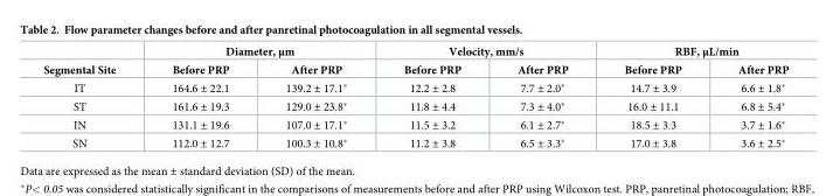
<table><thead><tr><td rowspan="2">Segmental Site</td><td colspan="2">Diameter, μm</td><td colspan="2">Velocity, mm/s</td><td colspan="2">RBF, μL/min</td></tr><tr><td>Before PRP</td><td>After PRP</td><td>Before PRP</td><td>After PRP</td><td>Before PRP</td><td>After PRP</td></tr></thead><tbody><tr><td>IT</td><td>164.6 ± 22.1</td><td>139.2 ± 17.1*</td><td>12.2 ± 2.8</td><td>7.7 ± 2.0*</td><td>14.7 ± 3.9</td><td>6.6 ± 1.8*</td></tr><tr><td>ST</td><td>161.6 ± 19.3</td><td>129.0 ± 23.8*</td><td>11.8 ± 4.4</td><td>7.3 ± 4.0*</td><td>16.0 ± 11.1</td><td>6.8 ± 5.4*</td></tr><tr><td>IN</td><td>131.1 ± 19.6</td><td>107.0 ± 17.1*</td><td>11.5 ± 3.2</td><td>6.1 ± 2.7*</td><td>18.5 ± 3.3</td><td>3.7 ± 1.6*</td></tr><tr><td>SN</td><td>112.0 ± 12.7</td><td>100.3 ± 10.8*</td><td>11.2 ± 3.8</td><td>6.5 ± 3.3*</td><td>17.0 ± 3.8</td><td>3.6 ± 2.5*</td></tr></tbody></table>